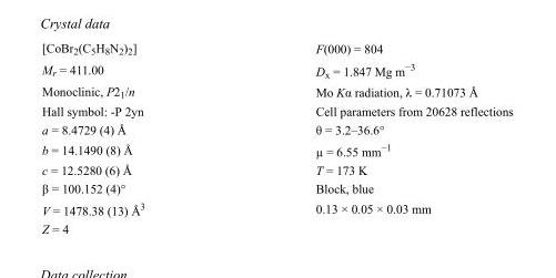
<table><tbody><tr><td>[CoBr<sub>2</sub>(C<sub>5</sub>H<sub>8</sub>N<sub>2</sub>)<sub>2</sub>]</td><td>F(000) = 804</td></tr><tr><td>M<sub>r</sub> = 411.00</td><td>D<sub>x</sub> = 1.847 Mg m<sup>−3</sup></td></tr><tr><td>Monoclinic, P2<sub>1</sub>/n</td><td>Mo Kα radiation, λ = 0.71073 Å</td></tr><tr><td>Hall symbol: -P 2yn</td><td>Cell parameters from 20628 reflections</td></tr><tr><td>a = 8.4729 (4) Å</td><td>θ = 3.2–36.6°</td></tr><tr><td>b = 14.1490 (8) Å</td><td>µ = 6.55 mm<sup>−1</sup></td></tr><tr><td>c = 12.5280 (6) Å</td><td>T = 173 K</td></tr><tr><td>β = 100.152 (4)°</td><td>Block, blue</td></tr><tr><td>V = 1478.38 (13) Å<sup>3</sup></td><td>0.13 × 0.05 × 0.03 mm</td></tr><tr><td>Z = 4</td><td></td></tr></tbody></table>